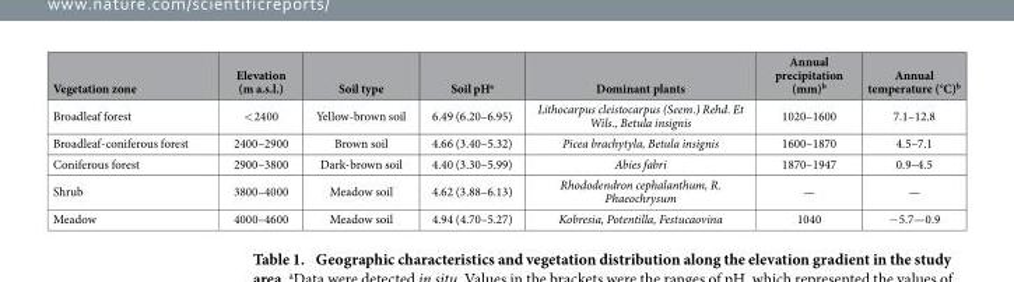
<table><thead><tr><td>Vegetation zone</td><td>Elevation (m a.s.l.)</td><td>Soil type</td><td>Soil pH<sup>a</sup></td><td>Dominant plants</td><td>Annual precipitation (mm)<sup>b</sup></td><td>Annual temperature (°C)<sup>b</sup></td></tr></thead><tbody><tr><td>Broadleaf forest</td><td>&lt; 2400</td><td>Yellow-brown soil</td><td>6.49 (6.20–6.95)</td><td>Lithocarpus cleistocarpus (Seem.) Rehd. Et Wils., Betula insignis</td><td>1020–1600</td><td>7.1–12.8</td></tr><tr><td>Broadleaf-coniferous forest</td><td>2400–2900</td><td>Brown soil</td><td>4.66 (3.40–5.32)</td><td>Picea brachytyla, Betula insignis</td><td>1600–1870</td><td>4.5–7.1</td></tr><tr><td>Coniferous forest</td><td>2900–3800</td><td>Dark-brown soil</td><td>4.40 (3.30–5.99)</td><td>Abies fabri</td><td>1870–1947</td><td>0.9–4.5</td></tr><tr><td>Shrub</td><td>3800–4000</td><td>Meadow soil</td><td>4.62 (3.88–6.13)</td><td>Rhododendron cephalanthum, R. Phaeochrysum</td><td>—</td><td>—</td></tr><tr><td>Meadow</td><td>4000–4600</td><td>Meadow soil</td><td>4.94 (4.70–5.27)</td><td>Kobresia, Potentilla, Festucaovina</td><td>1040</td><td>− 5.7—0.9</td></tr></tbody></table>